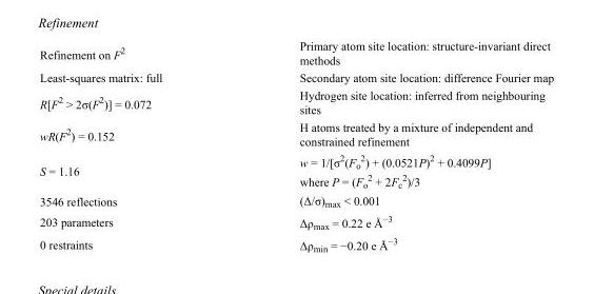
<table><tbody><tr><td>Refinement on F<sup>2</sup></td><td>Primary atom site location: structure-invariant direct methods</td></tr><tr><td>Least-squares matrix: full</td><td>Secondary atom site location: difference Fourier map</td></tr><tr><td>R[F<sup>2</sup> &gt; 2σ(F<sup>2</sup>)] = 0.072</td><td>Hydrogen site location: inferred from neighbouring sites</td></tr><tr><td>wR(F<sup>2</sup>) = 0.152</td><td>H atoms treated by a mixture of independent and constrained refinement</td></tr><tr><td>S = 1.16</td><td>w = 1/[σ<sup>2</sup>(F<sub>o</sub> <sup>2</sup>) + (0.0521P)<sup>2</sup> + 0.4099P] where P = (F<sub>o</sub> <sup>2</sup> + 2F<sub>c</sub> <sup>2</sup>)/3</td></tr><tr><td>3546 reflections</td><td>(Δ/σ)<sub>max</sub> &lt; 0.001</td></tr><tr><td>203 parameters</td><td>Δρ<sub>max</sub> = 0.22 e Å<sup>−3</sup></td></tr><tr><td>0 restraints</td><td>Δρ<sub>min</sub> = −0.20 e Å<sup>−3</sup></td></tr></tbody></table>